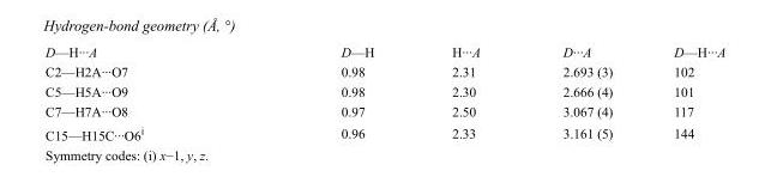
<table><tbody><tr><td>D—H···A</td><td>D—H</td><td>H···A</td><td>D···A</td><td>D—H···A</td></tr><tr><td>C2—H2A···O7</td><td>0.98</td><td>2.31</td><td>2.693 (3)</td><td>102</td></tr><tr><td>C5—H5A···O9</td><td>0.98</td><td>2.30</td><td>2.666 (4)</td><td>101</td></tr><tr><td>C7—H7A···O8</td><td>0.97</td><td>2.50</td><td>3.067 (4)</td><td>117</td></tr><tr><td>C15—H15C···O6<sup>i</sup></td><td>0.96</td><td>2.33</td><td>3.161 (5)</td><td>144</td></tr></tbody></table>